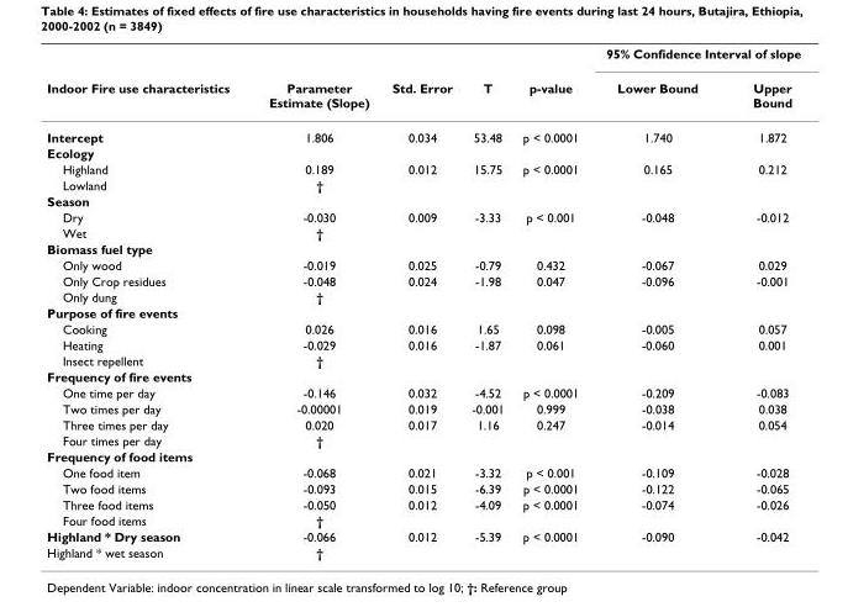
<table><thead><tr><td rowspan="2">Indoor Fire use characteristics</td><td rowspan="2">Parameter Estimate (Slope)</td><td rowspan="2">Std. Error</td><td rowspan="2">T</td><td rowspan="2">p-value</td><td colspan="2">95% Confidence Interval of slope</td></tr><tr><td>Lower Bound</td><td>Upper Bound</td></tr></thead><tbody><tr><td>Intercept</td><td>1.806</td><td>0.034</td><td>53.48</td><td>p &lt; 0.0001</td><td>1.740</td><td>1.872</td></tr><tr><td colspan="7">Ecology</td></tr><tr><td>Highland</td><td>0.189</td><td>0.012</td><td>15.75</td><td>p &lt; 0.0001</td><td>0.165</td><td>0.212</td></tr><tr><td>Lowland</td><td>†</td><td></td><td></td><td></td><td></td><td></td></tr><tr><td colspan="7">Season</td></tr><tr><td>Dry</td><td>-0.030</td><td>0.009</td><td>-3.33</td><td>p &lt; 0.001</td><td>-0.048</td><td>-0.012</td></tr><tr><td>Wet</td><td>†</td><td></td><td></td><td></td><td></td><td></td></tr><tr><td colspan="7">Biomass fuel type</td></tr><tr><td>Only wood</td><td>-0.019</td><td>0.025</td><td>-0.79</td><td>0.432</td><td>-0.067</td><td>0.029</td></tr><tr><td>Only Crop residues</td><td>-0.048</td><td>0.024</td><td>-1.98</td><td>0.047</td><td>-0.096</td><td>-0.001</td></tr><tr><td>Only dung</td><td>†</td><td></td><td></td><td></td><td></td><td></td></tr><tr><td colspan="7">Purpose of fire events</td></tr><tr><td>Cooking</td><td>0.026</td><td>0.016</td><td>1.65</td><td>0.098</td><td>-0.005</td><td>0.057</td></tr><tr><td>Heating</td><td>-0.029</td><td>0.016</td><td>-1.87</td><td>0.061</td><td>-0.060</td><td>0.001</td></tr><tr><td>Insect repellent</td><td>†</td><td></td><td></td><td></td><td></td><td></td></tr><tr><td colspan="7">Frequency of fire events</td></tr><tr><td>One time per day</td><td>-0.146</td><td>0.032</td><td>-4.52</td><td>p &lt; 0.0001</td><td>-0.209</td><td>-0.083</td></tr><tr><td>Two times per day</td><td>-0.00001</td><td>0.019</td><td>-0.001</td><td>0.999</td><td>-0.038</td><td>0.038</td></tr><tr><td>Three times per day</td><td>0.020</td><td>0.017</td><td>1.16</td><td>0.247</td><td>-0.014</td><td>0.054</td></tr><tr><td>Four times per day</td><td>†</td><td></td><td></td><td></td><td></td><td></td></tr><tr><td colspan="7">Frequency of food items</td></tr><tr><td>One food item</td><td>-0.068</td><td>0.021</td><td>-3.32</td><td>p &lt; 0.001</td><td>-0.109</td><td>-0.028</td></tr><tr><td>Two food items</td><td>-0.093</td><td>0.015</td><td>-6.39</td><td>p &lt; 0.0001</td><td>-0.122</td><td>-0.065</td></tr><tr><td>Three food items</td><td>-0.050</td><td>0.012</td><td>-4.09</td><td>p &lt; 0.0001</td><td>-0.074</td><td>-0.026</td></tr><tr><td>Four food items</td><td>†</td><td></td><td></td><td></td><td></td><td></td></tr><tr><td>Highland * Dry season</td><td>-0.066</td><td>0.012</td><td>-5.39</td><td>p &lt; 0.0001</td><td>-0.090</td><td>-0.042</td></tr><tr><td>Highland * wet season</td><td>†</td><td></td><td></td><td></td><td></td><td></td></tr></tbody></table>